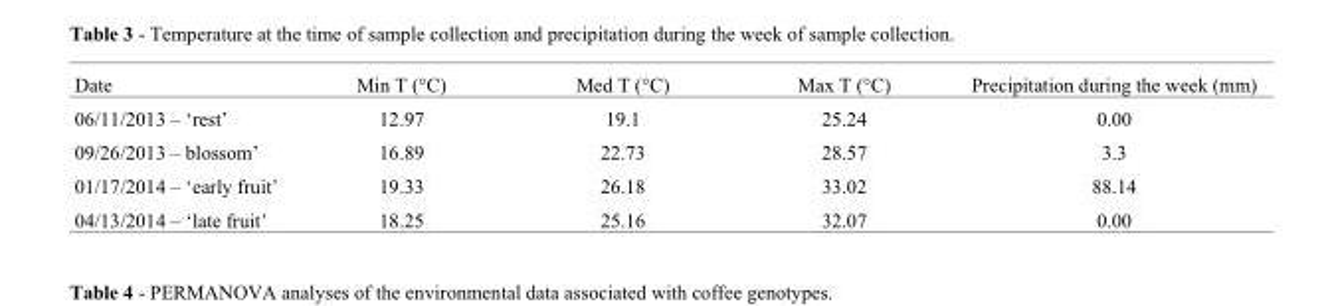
<table><thead><tr><td>Date</td><td>Min T (°C)</td><td>Med T (°C)</td><td>Max T (°C)</td><td>Precipitation during the week (mm)</td></tr></thead><tbody><tr><td>06/11/2013 – ‘rest’</td><td>12.97</td><td>19.1</td><td>25.24</td><td>0.00</td></tr><tr><td>09/26/2013 – blossom’</td><td>16.89</td><td>22.73</td><td>28.57</td><td>3.3</td></tr><tr><td>01/17/2014 – ‘early fruit’</td><td>19.33</td><td>26.18</td><td>33.02</td><td>88.14</td></tr><tr><td>04/13/2014 – ‘late fruit’</td><td>18.25</td><td>25.16</td><td>32.07</td><td>0.00</td></tr></tbody></table>